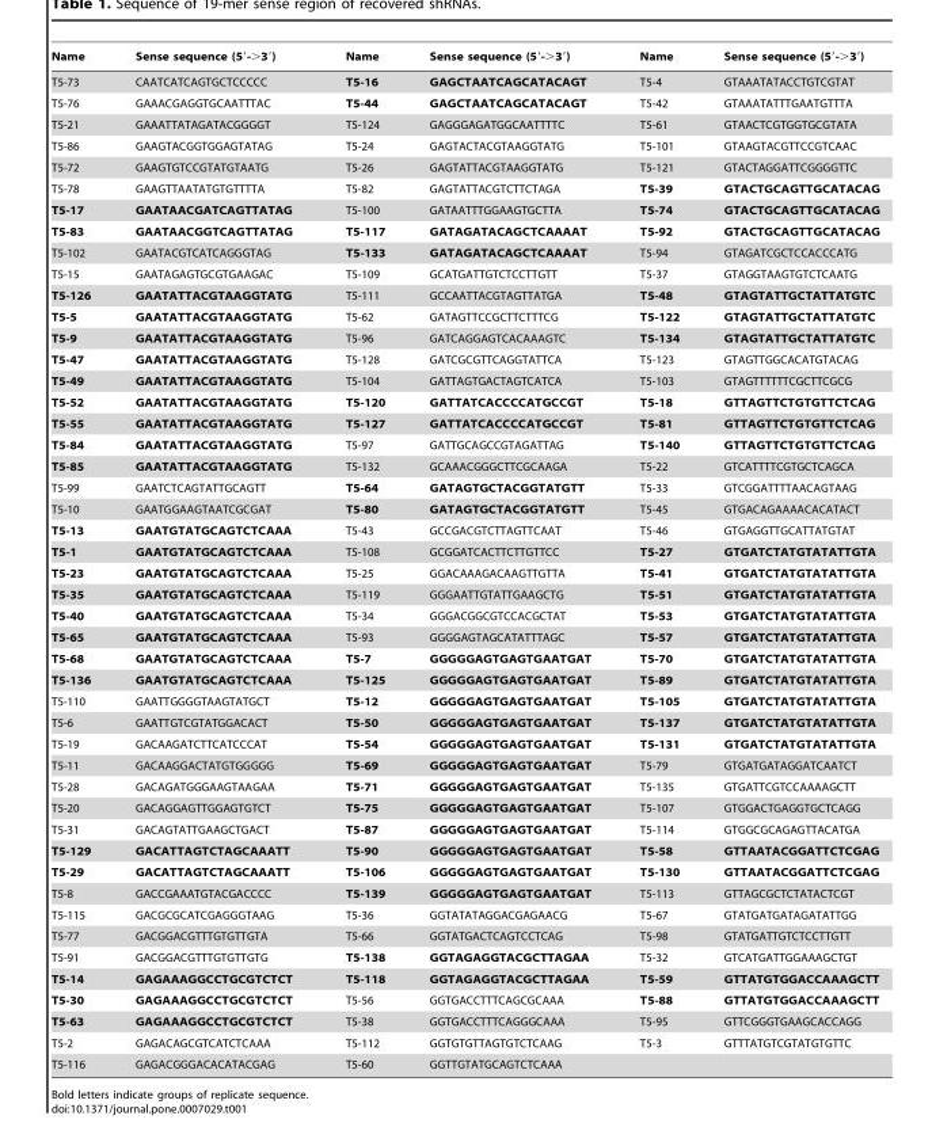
<table><thead><tr><td>Name</td><td>Sense sequence (5′-&gt;3′)</td><td>Name</td><td>Sense sequence (5′-&gt;3′)</td><td>Name</td><td>Sense sequence (5′-&gt;3′)</td></tr></thead><tbody><tr><td>T5-73</td><td>CAATCATCAGTGCTCCCCC</td><td>T5-16</td><td>GAGCTAATCAGCATACAGT</td><td>T5-4</td><td>GTAAATATACCTGTCGTAT</td></tr><tr><td>T5-76</td><td>GAAACGAGGTGCAATTTAC</td><td>T5-44</td><td>GAGCTAATCAGCATACAGT</td><td>T5-42</td><td>GTAAATATTTGAATGTTTA</td></tr><tr><td>T5-21</td><td>GAAATTATAGATACGGGGT</td><td>T5-124</td><td>GAGGGAGATGGCAATTTTC</td><td>T5-61</td><td>GTAACTCGTGGTGCGTATA</td></tr><tr><td>T5-86</td><td>GAAGTACGGTGGAGTATAG</td><td>T5-24</td><td>GAGTACTACGTAAGGTATG</td><td>T5-101</td><td>GTAAGTACGTTCCGTCAAC</td></tr><tr><td>T5-72</td><td>GAAGTGTCCGTATGTAATG</td><td>T5-26</td><td>GAGTATTACGTAAGGTATG</td><td>T5-121</td><td>GTACTAGGATTCGGGGTTC</td></tr><tr><td>T5-78</td><td>GAAGTTAATATGTGTTTTA</td><td>T5-82</td><td>GAGTATTACGTCTTCTAGA</td><td>T5-39</td><td>GTACTGCAGTTGCATACAG</td></tr><tr><td>T5-17</td><td>GAATAACGATCAGTTATAG</td><td>T5-100</td><td>GATAATTTGGAAGTGCTTA</td><td>T5-74</td><td>GTACTGCAGTTGCATACAG</td></tr><tr><td>T5-83</td><td>GAATAACGGTCAGTTATAG</td><td>T5-117</td><td>GATAGATACAGCTCAAAAT</td><td>T5-92</td><td>GTACTGCAGTTGCATACAG</td></tr><tr><td>T5-102</td><td>GAATACGTCATCAGGGTAG</td><td>T5-133</td><td>GATAGATACAGCTCAAAAT</td><td>T5-94</td><td>GTAGATCGCTCCACCCATG</td></tr><tr><td>T5-15</td><td>GAATAGAGTGCGTGAAGAC</td><td>T5-109</td><td>GCATGATTGTCTCCTTGTT</td><td>T5-37</td><td>GTAGGTAAGTGTCTCAATG</td></tr><tr><td>T5-126</td><td>GAATATTACGTAAGGTATG</td><td>T5-111</td><td>GCCAATTACGTAGTTATGA</td><td>T5-48</td><td>GTAGTATTGCTATTATGTC</td></tr><tr><td>T5-5</td><td>GAATATTACGTAAGGTATG</td><td>T5-62</td><td>GATAGTTCCGCTTCTTTCG</td><td>T5-122</td><td>GTAGTATTGCTATTATGTC</td></tr><tr><td>T5-9</td><td>GAATATTACGTAAGGTATG</td><td>T5-96</td><td>GATCAGGAGTCACAAAGTC</td><td>T5-134</td><td>GTAGTATTGCTATTATGTC</td></tr><tr><td>T5-47</td><td>GAATATTACGTAAGGTATG</td><td>T5-128</td><td>GATCGCGTTCAGGTATTCA</td><td>T5-123</td><td>GTAGTTGGCACATGTACAG</td></tr><tr><td>T5-49</td><td>GAATATTACGTAAGGTATG</td><td>T5-104</td><td>GATTAGTGACTAGTCATCA</td><td>T5-103</td><td>GTAGTTTTTTCGCTTCGCG</td></tr><tr><td>T5-52</td><td>GAATATTACGTAAGGTATG</td><td>T5-120</td><td>GATTATCACCCCATGCCGT</td><td>T5-18</td><td>GTTAGTTCTGTGTTCTCAG</td></tr><tr><td>T5-55</td><td>GAATATTACGTAAGGTATG</td><td>T5-127</td><td>GATTATCACCCCATGCCGT</td><td>T5-81</td><td>GTTAGTTCTGTGTTCTCAG</td></tr><tr><td>T5-84</td><td>GAATATTACGTAAGGTATG</td><td>T5-97</td><td>GATTGCAGCCGTAGATTAG</td><td>T5-140</td><td>GTTAGTTCTGTGTTCTCAG</td></tr><tr><td>T5-85</td><td>GAATATTACGTAAGGTATG</td><td>T5-132</td><td>GCAAACGGGCTTCGCAAGA</td><td>T5-22</td><td>GTCATTTTCGTGCTCAGCA</td></tr><tr><td>T5-99</td><td>GAATCTCAGTATTGCAGTT</td><td>T5-64</td><td>GATAGTGCTACGGTATGTT</td><td>T5-33</td><td>GTCGGATTTTAACAGTAAG</td></tr><tr><td>T5-10</td><td>GAATGGAAGTAATCGCGAT</td><td>T5-80</td><td>GATAGTGCTACGGTATGTT</td><td>T5-45</td><td>GTGACAGAAAACACATACT</td></tr><tr><td>T5-13</td><td>GAATGTATGCAGTCTCAAA</td><td>T5-43</td><td>GCCGACGTCTTAGTTCAAT</td><td>T5-46</td><td>GTGAGGTTGCATTATGTAT</td></tr><tr><td>T5-1</td><td>GAATGTATGCAGTCTCAAA</td><td>T5-108</td><td>GCGGATCACTTCTTGTTCC</td><td>T5-27</td><td>GTGATCTATGTATATTGTA</td></tr><tr><td>T5-23</td><td>GAATGTATGCAGTCTCAAA</td><td>T5-25</td><td>GGACAAAGACAAGTTGTTA</td><td>T5-41</td><td>GTGATCTATGTATATTGTA</td></tr><tr><td>T5-35</td><td>GAATGTATGCAGTCTCAAA</td><td>T5-119</td><td>GGGAATTGTATTGAAGCTG</td><td>T5-51</td><td>GTGATCTATGTATATTGTA</td></tr><tr><td>T5-40</td><td>GAATGTATGCAGTCTCAAA</td><td>T5-34</td><td>GGGACGGCGTCCACGCTAT</td><td>T5-53</td><td>GTGATCTATGTATATTGTA</td></tr><tr><td>T5-65</td><td>GAATGTATGCAGTCTCAAA</td><td>T5-93</td><td>GGGGAGTAGCATATTTAGC</td><td>T5-57</td><td>GTGATCTATGTATATTGTA</td></tr><tr><td>T5-68</td><td>GAATGTATGCAGTCTCAAA</td><td>T5-7</td><td>GGGGGAGTGAGTGAATGAT</td><td>T5-70</td><td>GTGATCTATGTATATTGTA</td></tr><tr><td>T5-136</td><td>GAATGTATGCAGTCTCAAA</td><td>T5-125</td><td>GGGGGAGTGAGTGAATGAT</td><td>T5-89</td><td>GTGATCTATGTATATTGTA</td></tr><tr><td>T5-110</td><td>GAATTGGGGTAAGTATGCT</td><td>T5-12</td><td>GGGGGAGTGAGTGAATGAT</td><td>T5-105</td><td>GTGATCTATGTATATTGTA</td></tr><tr><td>T5-6</td><td>GAATTGTCGTATGGACACT</td><td>T5-50</td><td>GGGGGAGTGAGTGAATGAT</td><td>T5-137</td><td>GTGATCTATGTATATTGTA</td></tr><tr><td>T5-19</td><td>GACAAGATCTTCATCCCAT</td><td>T5-54</td><td>GGGGGAGTGAGTGAATGAT</td><td>T5-131</td><td>GTGATCTATGTATATTGTA</td></tr><tr><td>T5-11</td><td>GACAAGGACTATGTGGGGG</td><td>T5-69</td><td>GGGGGAGTGAGTGAATGAT</td><td>T5-79</td><td>GTGATGATAGGATCAATCT</td></tr><tr><td>T5-28</td><td>GACAGATGGGAAGTAAGAA</td><td>T5-71</td><td>GGGGGAGTGAGTGAATGAT</td><td>T5-135</td><td>GTGATTCGTCCAAAAGCTT</td></tr><tr><td>T5-20</td><td>GACAGGAGTTGGAGTGTCT</td><td>T5-75</td><td>GGGGGAGTGAGTGAATGAT</td><td>T5-107</td><td>GTGGACTGAGGTGCTCAGG</td></tr><tr><td>T5-31</td><td>GACAGTATTGAAGCTGACT</td><td>T5-87</td><td>GGGGGAGTGAGTGAATGAT</td><td>T5-114</td><td>GTGGCGCAGAGTTACATGA</td></tr><tr><td>T5-129</td><td>GACATTAGTCTAGCAAATT</td><td>T5-90</td><td>GGGGGAGTGAGTGAATGAT</td><td>T5-58</td><td>GTTAATACGGATTCTCGAG</td></tr><tr><td>T5-29</td><td>GACATTAGTCTAGCAAATT</td><td>T5-106</td><td>GGGGGAGTGAGTGAATGAT</td><td>T5-130</td><td>GTTAATACGGATTCTCGAG</td></tr><tr><td>T5-8</td><td>GACCGAAATGTACGACCCC</td><td>T5-139</td><td>GGGGGAGTGAGTGAATGAT</td><td>T5-113</td><td>GTTAGCGCTCTATACTCGT</td></tr><tr><td>T5-115</td><td>GACGCGCATCGAGGGTAAG</td><td>T5-36</td><td>GGTATATAGGACGAGAACG</td><td>T5-67</td><td>GTATGATGATAGATATTGG</td></tr><tr><td>T5-77</td><td>GACGGACGTTTGTGTTGTA</td><td>T5-66</td><td>GGTATGACTCAGTCCTCAG</td><td>T5-98</td><td>GTATGATTGTCTCCTTGTT</td></tr><tr><td>T5-91</td><td>GACGGACGTTTGTGTTGTG</td><td>T5-138</td><td>GGTAGAGGTACGCTTAGAA</td><td>T5-32</td><td>GTCATGATTGGAAAGCTGT</td></tr><tr><td>T5-14</td><td>GAGAAAGGCCTGCGTCTCT</td><td>T5-118</td><td>GGTAGAGGTACGCTTAGAA</td><td>T5-59</td><td>GTTATGTGGACCAAAGCTT</td></tr><tr><td>T5-30</td><td>GAGAAAGGCCTGCGTCTCT</td><td>T5-56</td><td>GGTGACCTTTCAGCGCAAA</td><td>T5-88</td><td>GTTATGTGGACCAAAGCTT</td></tr><tr><td>T5-63</td><td>GAGAAAGGCCTGCGTCTCT</td><td>T5-38</td><td>GGTGACCTTTCAGGGCAAA</td><td>T5-95</td><td>GTTCGGGTGAAGCACCAGG</td></tr><tr><td>T5-2</td><td>GAGACAGCGTCATCTCAAA</td><td>T5-112</td><td>GGTGTGTTAGTGTCTCAAG</td><td>T5-3</td><td>GTTTATGTCGTATGTGTTC</td></tr><tr><td>T5-116</td><td>GAGACGGGACACATACGAG</td><td>T5-60</td><td>GGTTGTATGCAGTCTCAAA</td><td></td><td></td></tr></tbody></table>